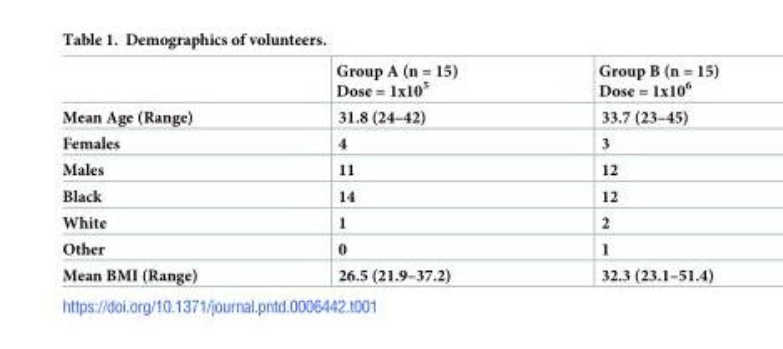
<table><thead><tr><td></td><td>Group A (n = 15) Dose = 1x10<sup>5</sup></td><td>Group B (n = 15) Dose = 1x10<sup>6</sup></td></tr></thead><tbody><tr><td>Mean Age (Range)</td><td>31.8 (24–42)</td><td>33.7 (23–45)</td></tr><tr><td>Females</td><td>4</td><td>3</td></tr><tr><td>Males</td><td>11</td><td>12</td></tr><tr><td>Black</td><td>14</td><td>12</td></tr><tr><td>White</td><td>1</td><td>2</td></tr><tr><td>Other</td><td>0</td><td>1</td></tr><tr><td>Mean BMI (Range)</td><td>26.5 (21.9–37.2)</td><td>32.3 (23.1–51.4)</td></tr></tbody></table>